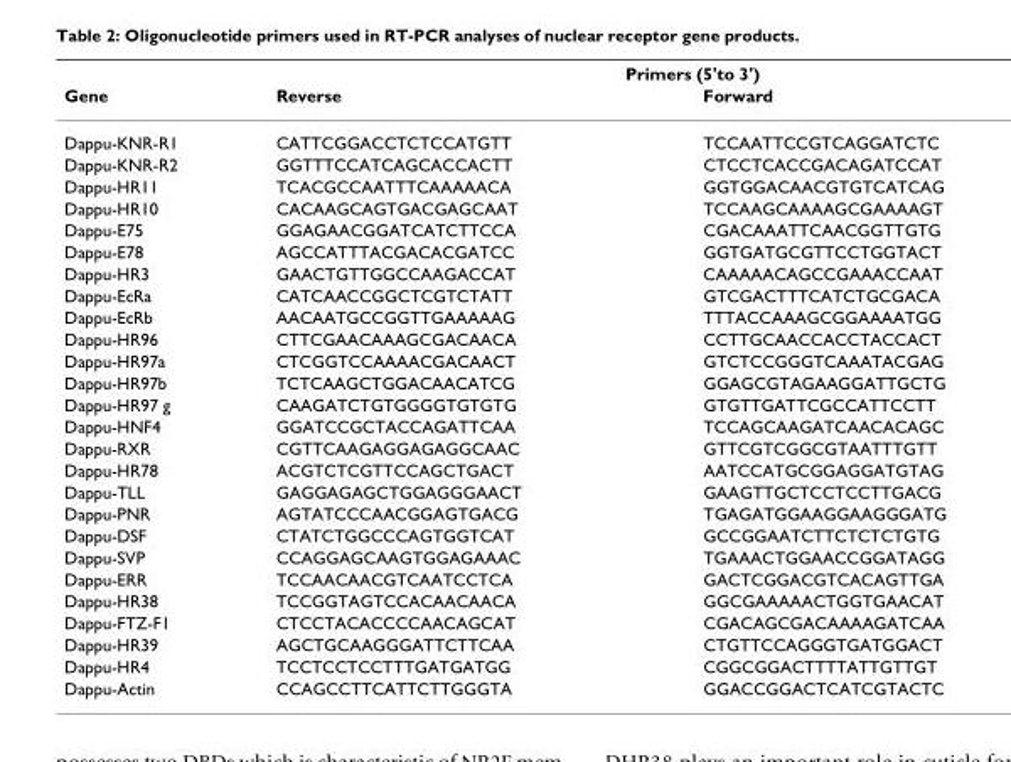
<table><thead><tr><td rowspan="2">Gene</td><td colspan="2">Primers (5&#x27;to 3&#x27;)</td></tr><tr><td>Reverse</td><td>Forward</td></tr></thead><tbody><tr><td>Dappu-KNR-R1</td><td>CATTCGGACCTCTCCATGTT</td><td>TCCAATTCCGTCAGGATCTC</td></tr><tr><td>Dappu-KNR-R2</td><td>GGTTTCCATCAGCACCACTT</td><td>CTCCTCACCGACAGATCCAT</td></tr><tr><td>Dappu-HR11</td><td>TCACGCCAATTTCAAAAACA</td><td>GGTGGACAACGTGTCATCAG</td></tr><tr><td>Dappu-HR10</td><td>CACAAGCAGTGACGAGCAAT</td><td>TCCAAGCAAAAGCGAAAAGT</td></tr><tr><td>Dappu-E75</td><td>GGAGAACGGATCATCTTCCA</td><td>CGACAAATTCAACGGTTGTG</td></tr><tr><td>Dappu-E78</td><td>AGCCATTTACGACACGATCC</td><td>GGTGATGCGTTCCTGGTACT</td></tr><tr><td>Dappu-HR3</td><td>GAACTGTTGGCCAAGACCAT</td><td>CAAAAACAGCCGAAACCAAT</td></tr><tr><td>Dappu-EcRa</td><td>CATCAACCGGCTCGTCTATT</td><td>GTCGACTTTCATCTGCGACA</td></tr><tr><td>Dappu-EcRb</td><td>AACAATGCCGGTTGAAAAAG</td><td>TTTACCAAAGCGGAAAATGG</td></tr><tr><td>Dappu-HR96</td><td>CTTCGAACAAAGCGACAACA</td><td>CCTTGCAACCACCTACCACT</td></tr><tr><td>Dappu-HR97a</td><td>CTCGGTCCAAAACGACAACT</td><td>GTCTCCGGGTCAAATACGAG</td></tr><tr><td>Dappu-HR97b</td><td>TCTCAAGCTGGACAACATCG</td><td>GGAGCGTAGAAGGATTGCTG</td></tr><tr><td>Dappu-HR97 g</td><td>CAAGATCTGTGGGGTGTGTG</td><td>GTGTTGATTCGCCATTCCTT</td></tr><tr><td>Dappu-HNF4</td><td>GGATCCGCTACCAGATTCAA</td><td>TCCAGCAAGATCAACACAGC</td></tr><tr><td>Dappu-RXR</td><td>CGTTCAAGAGGAGAGGCAAC</td><td>GTTCGTCGGCGTAATTTGTT</td></tr><tr><td>Dappu-HR78</td><td>ACGTCTCGTTCCAGCTGACT</td><td>AATCCATGCGGAGGATGTAG</td></tr><tr><td>Dappu-TLL</td><td>GAGGAGAGCTGGAGGGAACT</td><td>GAAGTTGCTCCTCCTTGACG</td></tr><tr><td>Dappu-PNR</td><td>AGTATCCCAACGGAGTGACG</td><td>TGAGATGGAAGGAAGGGATG</td></tr><tr><td>Dappu-DSF</td><td>CTATCTGGCCCAGTGGTCAT</td><td>GCCGGAATCTTCTCTCTGTG</td></tr><tr><td>Dappu-SVP</td><td>CCAGGAGCAAGTGGAGAAAC</td><td>TGAAACTGGAACCGGATAGG</td></tr><tr><td>Dappu-ERR</td><td>TCCAACAACGTCAATCCTCA</td><td>GACTCGGACGTCACAGTTGA</td></tr><tr><td>Dappu-HR38</td><td>TCCGGTAGTCCACAACAACA</td><td>GGCGAAAAACTGGTGAACAT</td></tr><tr><td>Dappu-FTZ-F1</td><td>CTCCTACACCCCAACAGCAT</td><td>CGACAGCGACAAAAGATCAA</td></tr><tr><td>Dappu-HR39</td><td>AGCTGCAAGGGATTCTTCAA</td><td>CTGTTCCAGGGTGATGGACT</td></tr><tr><td>Dappu-HR4</td><td>TCCTCCTCCTTTGATGATGG</td><td>CGGCGGACTTTTATTGTTGT</td></tr><tr><td>Dappu-Actin</td><td>CCAGCCTTCATTCTTGGGTA</td><td>GGACCGGACTCATCGTACTC</td></tr></tbody></table>